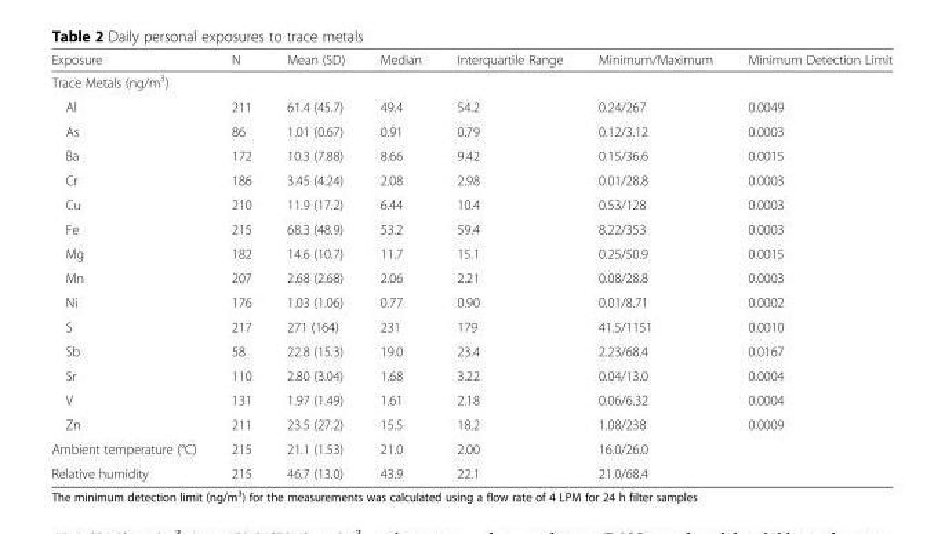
<table><thead><tr><td>Exposure</td><td>N</td><td>Mean (SD)</td><td>Median</td><td>Interquartile Range</td><td>Minimum/Maximum</td><td>Minimum Detection Limit</td></tr></thead><tbody><tr><td colspan="7">Trace Metals (ng/m<sup>3</sup>)</td></tr><tr><td>Al</td><td>211</td><td>61.4 (45.7)</td><td>49.4</td><td>54.2</td><td>0.24/267</td><td>0.0049</td></tr><tr><td>As</td><td>86</td><td>1.01 (0.67)</td><td>0.91</td><td>0.79</td><td>0.12/3.12</td><td>0.0003</td></tr><tr><td>Ba</td><td>172</td><td>10.3 (7.88)</td><td>8.66</td><td>9.42</td><td>0.15/36.6</td><td>0.0015</td></tr><tr><td>Cr</td><td>186</td><td>3.45 (4.24)</td><td>2.08</td><td>2.98</td><td>0.01/28.8</td><td>0.0003</td></tr><tr><td>Cu</td><td>210</td><td>11.9 (17.2)</td><td>6.44</td><td>10.4</td><td>0.53/128</td><td>0.0003</td></tr><tr><td>Fe</td><td>215</td><td>68.3 (48.9)</td><td>53.2</td><td>59.4</td><td>8.22/353</td><td>0.0003</td></tr><tr><td>Mg</td><td>182</td><td>14.6 (10.7)</td><td>11.7</td><td>15.1</td><td>0.25/50.9</td><td>0.0015</td></tr><tr><td>Mn</td><td>207</td><td>2.68 (2.68)</td><td>2.06</td><td>2.21</td><td>0.08/28.8</td><td>0.0003</td></tr><tr><td>Ni</td><td>176</td><td>1.03 (1.06)</td><td>0.77</td><td>0.90</td><td>0.01/8.71</td><td>0.0002</td></tr><tr><td>S</td><td>217</td><td>271 (164)</td><td>231</td><td>179</td><td>41.5/1151</td><td>0.0010</td></tr><tr><td>Sb</td><td>58</td><td>22.8 (15.3)</td><td>19.0</td><td>23.4</td><td>2.23/68.4</td><td>0.0167</td></tr><tr><td>Sr</td><td>110</td><td>2.80 (3.04)</td><td>1.68</td><td>3.22</td><td>0.04/13.0</td><td>0.0004</td></tr><tr><td>V</td><td>131</td><td>1.97 (1.49)</td><td>1.61</td><td>2.18</td><td>0.06/6.32</td><td>0.0004</td></tr><tr><td>Zn</td><td>211</td><td>23.5 (27.2)</td><td>15.5</td><td>18.2</td><td>1.08/238</td><td>0.0009</td></tr><tr><td>Ambient temperature (°C)</td><td>215</td><td>21.1 (1.53)</td><td>21.0</td><td>2.00</td><td>16.0/26.0</td><td></td></tr><tr><td>Relative humidity</td><td>215</td><td>46.7 (13.0)</td><td>43.9</td><td>22.1</td><td>21.0/68.4</td><td></td></tr></tbody></table>